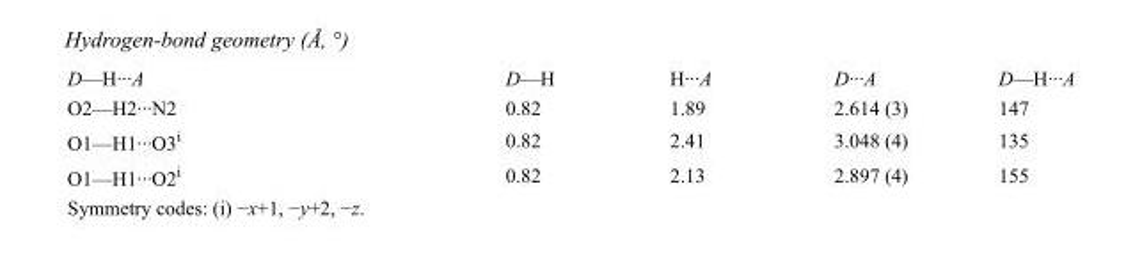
<table><tbody><tr><td>D—H···A</td><td>D—H</td><td>H···A</td><td>D···A</td><td>D—H···A</td></tr><tr><td>O2—H2···N2</td><td>0.82</td><td>1.89</td><td>2.614 (3)</td><td>147</td></tr><tr><td>O1—H1···O3<sup>i</sup></td><td>0.82</td><td>2.41</td><td>3.048 (4)</td><td>135</td></tr><tr><td>O1—H1···O2<sup>i</sup></td><td>0.82</td><td>2.13</td><td>2.897 (4)</td><td>155</td></tr></tbody></table>